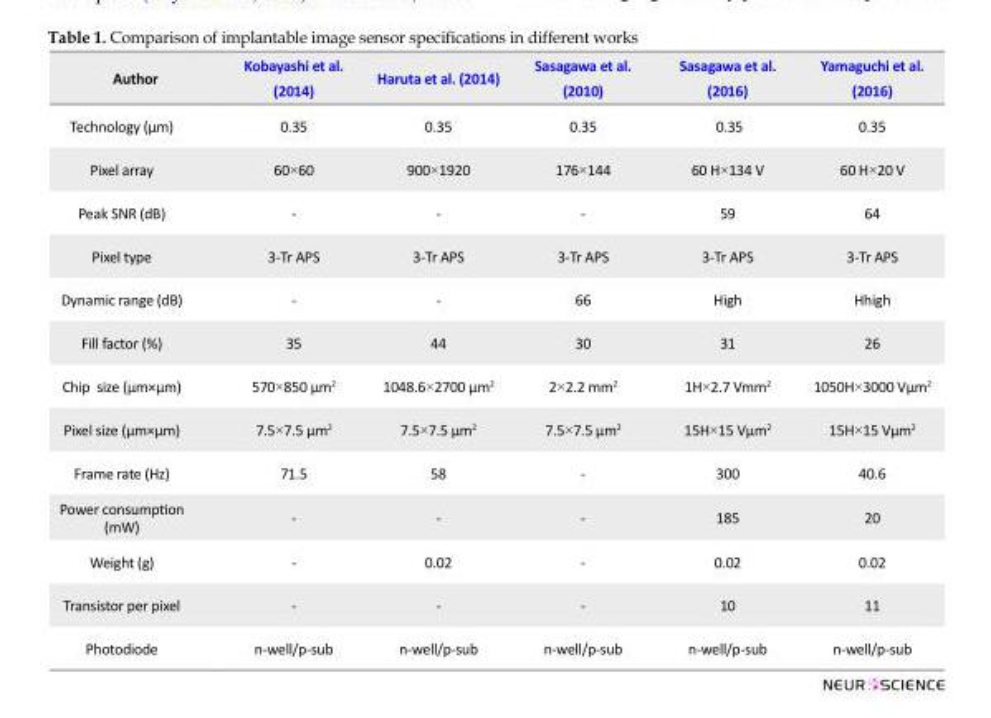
<table><thead><tr><td>Author</td><td>Kobayashi et al. (2014)</td><td>Haruta et al. (2014)</td><td>Sasagawa et al. (2010)</td><td>Sasagawa et al. (2016)</td><td>Yamaguchi et al. (2016)</td></tr></thead><tbody><tr><td>Technology (µm)</td><td>0.35</td><td>0.35</td><td>0.35</td><td>0.35</td><td>0.35</td></tr><tr><td>Pixel array</td><td>60×60</td><td>900×1920</td><td>176×144</td><td>60 H×134 V</td><td>60 H×20 V</td></tr><tr><td>Peak SNR (dB)</td><td>-</td><td>-</td><td>-</td><td>59</td><td>64</td></tr><tr><td>Pixel type</td><td>3-Tr APS</td><td>3-Tr APS</td><td>3-Tr APS</td><td>3-Tr APS</td><td>3-Tr APS</td></tr><tr><td>Dynamic range (dB)</td><td>-</td><td>-</td><td>66</td><td>High</td><td>Hhigh</td></tr><tr><td>Fill factor (%)</td><td>35</td><td>44</td><td>30</td><td>31</td><td>26</td></tr><tr><td>Chip size (µm×µm)</td><td>570×850 µm<sup>2</sup></td><td>1048.6×2700 µm<sup>2</sup></td><td>2×2.2 mm<sup>2</sup></td><td>1H×2.7 Vmm<sup>2</sup></td><td>1050H×3000 Vµm<sup>2</sup></td></tr><tr><td>Pixel size (µm×µm)</td><td>7.5×7.5 µm<sup>2</sup></td><td>7.5×7.5 µm<sup>2</sup></td><td>7.5×7.5 µm<sup>2</sup></td><td>15H×15 Vµm<sup>2</sup></td><td>15H×15 Vµm<sup>2</sup></td></tr><tr><td>Frame rate (Hz)</td><td>71.5</td><td>58</td><td>-</td><td>300</td><td>40.6</td></tr><tr><td>Power consumption (mW)</td><td>-</td><td>-</td><td>-</td><td>185</td><td>20</td></tr><tr><td>Weight (g)</td><td>-</td><td>0.02</td><td>-</td><td>0.02</td><td>0.02</td></tr><tr><td>Transistor per pixel</td><td>-</td><td>-</td><td>-</td><td>10</td><td>11</td></tr><tr><td>Photodiode</td><td>n-well/p-sub</td><td>n-well/p-sub</td><td>n-well/p-sub</td><td>n-well/p-sub</td><td>n-well/p-sub</td></tr></tbody></table>